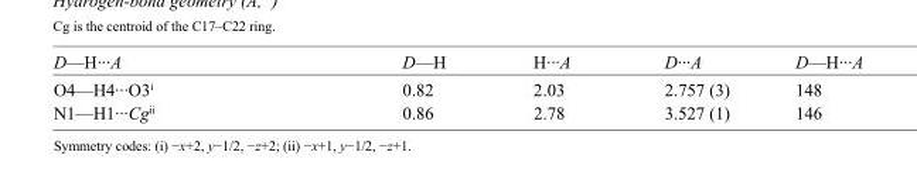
<table><tbody><tr><td>D—H···A</td><td>D—H</td><td>H···A</td><td>D···A</td><td>D—H···A</td></tr><tr><td>O4—H4···O3<sup>i</sup></td><td>0.82</td><td>2.03</td><td>2.757 (3)</td><td>148</td></tr><tr><td>N1—H1···Cg<sup>ii</sup></td><td>0.86</td><td>2.78</td><td>3.527 (1)</td><td>146</td></tr></tbody></table>